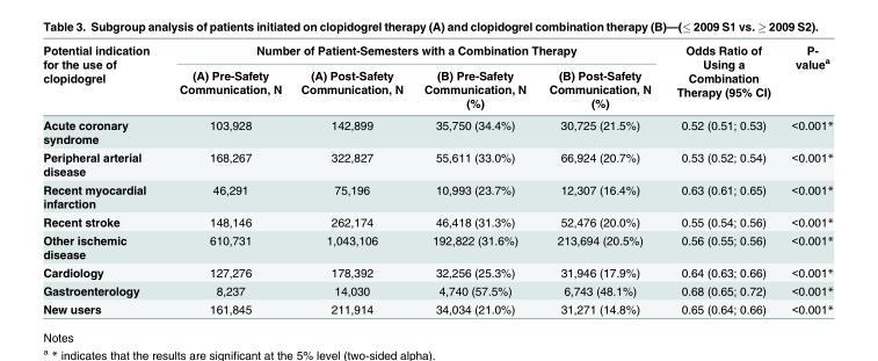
<table><thead><tr><td rowspan="2">Potential indication for the use of clopidogrel</td><td colspan="4">Number of Patient-Semesters with a Combination Therapy</td><td rowspan="2">Odds Ratio of Using a Combination Therapy (95% CI)</td><td rowspan="2">P- value<sup>a</sup></td></tr><tr><td>(A) Pre-Safety Communication, N</td><td>(A) Post-Safety Communication, N</td><td>(B) Pre-Safety Communication, N (%)</td><td>(B) Post-Safety Communication, N (%)</td></tr></thead><tbody><tr><td>Acute coronary syndrome</td><td>103,928</td><td>142,899</td><td>35,750 (34.4%)</td><td>30,725 (21.5%)</td><td>0.52 (0.51; 0.53)</td><td>&lt;0.001*</td></tr><tr><td>Peripheral arterial disease</td><td>168,267</td><td>322,827</td><td>55,611 (33.0%)</td><td>66,924 (20.7%)</td><td>0.53 (0.52; 0.54)</td><td>&lt;0.001*</td></tr><tr><td>Recent myocardial infarction</td><td>46,291</td><td>75,196</td><td>10,993 (23.7%)</td><td>12,307 (16.4%)</td><td>0.63 (0.61; 0.65)</td><td>&lt;0.001*</td></tr><tr><td>Recent stroke</td><td>148,146</td><td>262,174</td><td>46,418 (31.3%)</td><td>52,476 (20.0%)</td><td>0.55 (0.54; 0.56)</td><td>&lt;0.001*</td></tr><tr><td>Other ischemic disease</td><td>610,731</td><td>1,043,106</td><td>192,822 (31.6%)</td><td>213,694 (20.5%)</td><td>0.56 (0.55; 0.56)</td><td>&lt;0.001*</td></tr><tr><td>Cardiology</td><td>127,276</td><td>178,392</td><td>32,256 (25.3%)</td><td>31,946 (17.9%)</td><td>0.64 (0.63; 0.66)</td><td>&lt;0.001*</td></tr><tr><td>Gastroenterology</td><td>8,237</td><td>14,030</td><td>4,740 (57.5%)</td><td>6,743 (48.1%)</td><td>0.68 (0.65; 0.72)</td><td>&lt;0.001*</td></tr><tr><td>New users</td><td>161,845</td><td>211,914</td><td>34,034 (21.0%)</td><td>31,271 (14.8%)</td><td>0.65 (0.64; 0.66)</td><td>&lt;0.001*</td></tr></tbody></table>